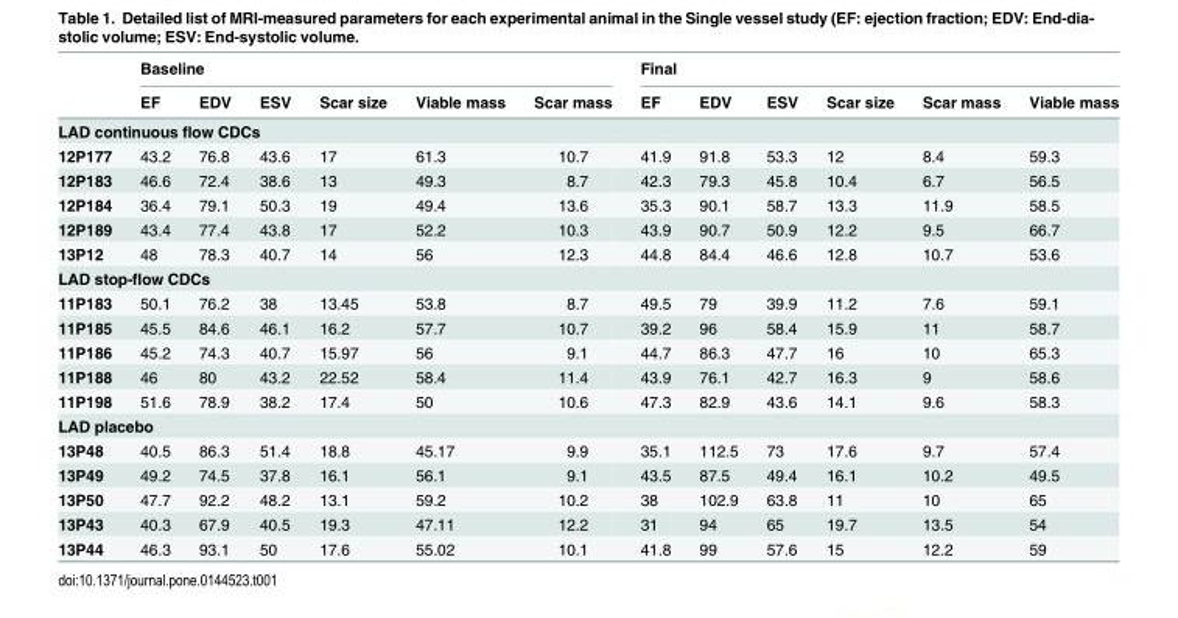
<table><thead><tr><td rowspan="2"></td><td colspan="6">Baseline</td><td colspan="6">Final</td></tr><tr><td>EF</td><td>EDV</td><td>ESV</td><td>Scar size</td><td>Viable mass</td><td>Scar mass</td><td>EF</td><td>EDV</td><td>ESV</td><td>Scar size</td><td>Scar mass</td><td>Viable mass</td></tr></thead><tbody><tr><td colspan="13">LAD continuous flow CDCs</td></tr><tr><td>12P177</td><td>43.2</td><td>76.8</td><td>43.6</td><td>17</td><td>61.3</td><td>10.7</td><td>41.9</td><td>91.8</td><td>53.3</td><td>12</td><td>8.4</td><td>59.3</td></tr><tr><td>12P183</td><td>46.6</td><td>72.4</td><td>38.6</td><td>13</td><td>49.3</td><td>8.7</td><td>42.3</td><td>79.3</td><td>45.8</td><td>10.4</td><td>6.7</td><td>56.5</td></tr><tr><td>12P184</td><td>36.4</td><td>79.1</td><td>50.3</td><td>19</td><td>49.4</td><td>13.6</td><td>35.3</td><td>90.1</td><td>58.7</td><td>13.3</td><td>11.9</td><td>58.5</td></tr><tr><td>12P189</td><td>43.4</td><td>77.4</td><td>43.8</td><td>17</td><td>52.2</td><td>10.3</td><td>43.9</td><td>90.7</td><td>50.9</td><td>12.2</td><td>9.5</td><td>66.7</td></tr><tr><td>13P12</td><td>48</td><td>78.3</td><td>40.7</td><td>14</td><td>56</td><td>12.3</td><td>44.8</td><td>84.4</td><td>46.6</td><td>12.8</td><td>10.7</td><td>53.6</td></tr><tr><td colspan="13">LAD stop-flow CDCs</td></tr><tr><td>11P183</td><td>50.1</td><td>76.2</td><td>38</td><td>13.45</td><td>53.8</td><td>8.7</td><td>49.5</td><td>79</td><td>39.9</td><td>11.2</td><td>7.6</td><td>59.1</td></tr><tr><td>11P185</td><td>45.5</td><td>84.6</td><td>46.1</td><td>16.2</td><td>57.7</td><td>10.7</td><td>39.2</td><td>96</td><td>58.4</td><td>15.9</td><td>11</td><td>58.7</td></tr><tr><td>11P186</td><td>45.2</td><td>74.3</td><td>40.7</td><td>15.97</td><td>56</td><td>9.1</td><td>44.7</td><td>86.3</td><td>47.7</td><td>16</td><td>10</td><td>65.3</td></tr><tr><td>11P188</td><td>46</td><td>80</td><td>43.2</td><td>22.52</td><td>58.4</td><td>11.4</td><td>43.9</td><td>76.1</td><td>42.7</td><td>16.3</td><td>9</td><td>58.6</td></tr><tr><td>11P198</td><td>51.6</td><td>78.9</td><td>38.2</td><td>17.4</td><td>50</td><td>10.6</td><td>47.3</td><td>82.9</td><td>43.6</td><td>14.1</td><td>9.6</td><td>58.3</td></tr><tr><td colspan="13">LAD placebo</td></tr><tr><td>13P48</td><td>40.5</td><td>86.3</td><td>51.4</td><td>18.8</td><td>45.17</td><td>9.9</td><td>35.1</td><td>112.5</td><td>73</td><td>17.6</td><td>9.7</td><td>57.4</td></tr><tr><td>13P49</td><td>49.2</td><td>74.5</td><td>37.8</td><td>16.1</td><td>56.1</td><td>9.1</td><td>43.5</td><td>87.5</td><td>49.4</td><td>16.1</td><td>10.2</td><td>49.5</td></tr><tr><td>13P50</td><td>47.7</td><td>92.2</td><td>48.2</td><td>13.1</td><td>59.2</td><td>10.2</td><td>38</td><td>102.9</td><td>63.8</td><td>11</td><td>10</td><td>65</td></tr><tr><td>13P43</td><td>40.3</td><td>67.9</td><td>40.5</td><td>19.3</td><td>47.11</td><td>12.2</td><td>31</td><td>94</td><td>65</td><td>19.7</td><td>13.5</td><td>54</td></tr><tr><td>13P44</td><td>46.3</td><td>93.1</td><td>50</td><td>17.6</td><td>55.02</td><td>10.1</td><td>41.8</td><td>99</td><td>57.6</td><td>15</td><td>12.2</td><td>59</td></tr></tbody></table>